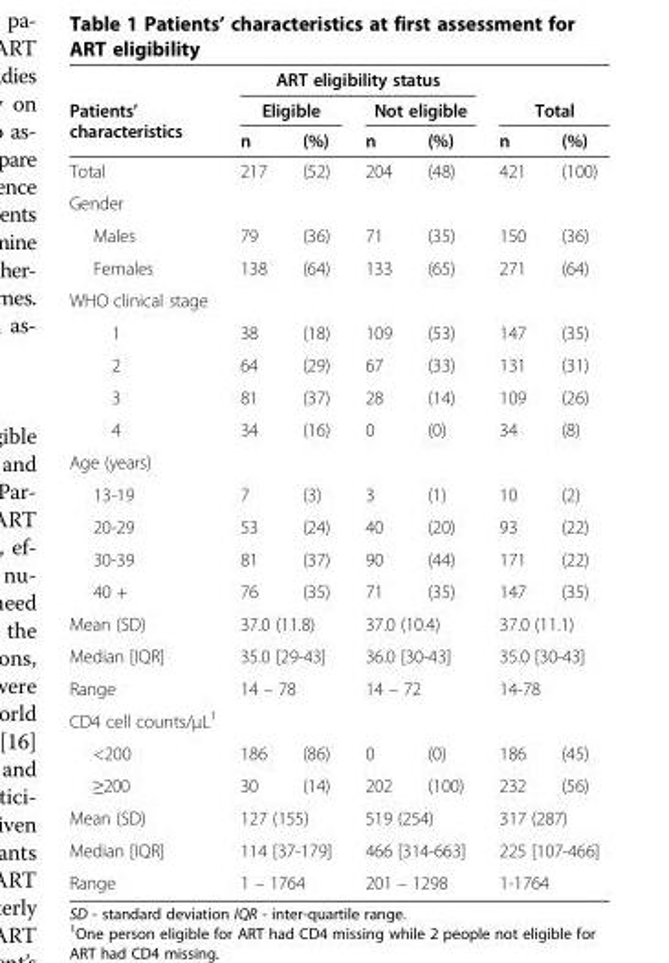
<table><thead><tr><td rowspan="3">Patients’ characteristics</td><td colspan="4">ART eligibility status</td><td></td><td></td></tr><tr><td colspan="2">Eligible</td><td colspan="2">Not eligible</td><td colspan="2">Total</td></tr><tr><td>n</td><td>(%)</td><td>n</td><td>(%)</td><td>n</td><td>(%)</td></tr></thead><tbody><tr><td>Total</td><td>217</td><td>(52)</td><td>204</td><td>(48)</td><td>421</td><td>(100)</td></tr><tr><td colspan="7">Gender</td></tr><tr><td>Males</td><td>79</td><td>(36)</td><td>71</td><td>(35)</td><td>150</td><td>(36)</td></tr><tr><td>Females</td><td>138</td><td>(64)</td><td>133</td><td>(65)</td><td>271</td><td>(64)</td></tr><tr><td colspan="7">WHO clinical stage</td></tr><tr><td>1</td><td>38</td><td>(18)</td><td>109</td><td>(53)</td><td>147</td><td>(35)</td></tr><tr><td>2</td><td>64</td><td>(29)</td><td>67</td><td>(33)</td><td>131</td><td>(31)</td></tr><tr><td>3</td><td>81</td><td>(37)</td><td>28</td><td>(14)</td><td>109</td><td>(26)</td></tr><tr><td>4</td><td>34</td><td>(16)</td><td>0</td><td>(0)</td><td>34</td><td>(8)</td></tr><tr><td colspan="7">Age (years)</td></tr><tr><td>13-19</td><td>7</td><td>(3)</td><td>3</td><td>(1)</td><td>10</td><td>(2)</td></tr><tr><td>20-29</td><td>53</td><td>(24)</td><td>40</td><td>(20)</td><td>93</td><td>(22)</td></tr><tr><td>30-39</td><td>81</td><td>(37)</td><td>90</td><td>(44)</td><td>171</td><td>(22)</td></tr><tr><td>40 +</td><td>76</td><td>(35)</td><td>71</td><td>(35)</td><td>147</td><td>(35)</td></tr><tr><td>Mean (SD)</td><td colspan="2">37.0 (11.8)</td><td colspan="2">37.0 (10.4)</td><td colspan="2">37.0 (11.1)</td></tr><tr><td>Median [IQR]</td><td colspan="2">35.0 [29-43]</td><td colspan="2">36.0 [30-43]</td><td colspan="2">35.0 [30-43]</td></tr><tr><td>Range</td><td colspan="2">14 – 78</td><td colspan="2">14 – 72</td><td colspan="2">14-78</td></tr><tr><td colspan="7">CD4 cell counts/μL<sup>1</sup></td></tr><tr><td>&lt;200</td><td>186</td><td>(86)</td><td>0</td><td>(0)</td><td>186</td><td>(45)</td></tr><tr><td>≥200</td><td>30</td><td>(14)</td><td>202</td><td>(100)</td><td>232</td><td>(56)</td></tr><tr><td>Mean (SD)</td><td colspan="2">127 (155)</td><td colspan="2">519 (254)</td><td colspan="2">317 (287)</td></tr><tr><td>Median [IQR]</td><td colspan="2">114 [37-179]</td><td colspan="2">466 [314-663]</td><td colspan="2">225 [107-466]</td></tr><tr><td>Range</td><td colspan="2">1 – 1764</td><td colspan="2">201 – 1298</td><td colspan="2">1-1764</td></tr></tbody></table>